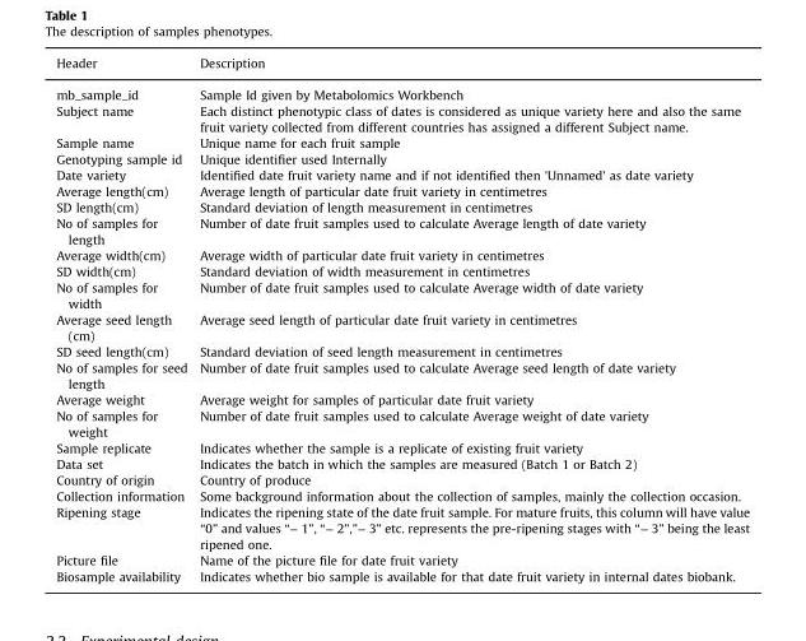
<table><thead><tr><td>Header</td><td>Description</td></tr></thead><tbody><tr><td>mb_sample_id</td><td>Sample Id given by Metabolomics Workbench</td></tr><tr><td>Subject name</td><td>Each distinct phenotypic class of dates is considered as unique variety here and also the same fruit variety collected from different countries has assigned a different Subject name.</td></tr><tr><td>Sample name</td><td>Unique name for each fruit sample</td></tr><tr><td>Genotyping sample id</td><td>Unique identifier used Internally</td></tr><tr><td>Date variety</td><td>Identified date fruit variety name and if not identified then &#x27;Unnamed&#x27; as date variety</td></tr><tr><td>Average length(cm)</td><td>Average length of particular date fruit variety in centimetres</td></tr><tr><td>SD length(cm)</td><td>Standard deviation of length measurement in centimetres</td></tr><tr><td>No of samples for length</td><td>Number of date fruit samples used to calculate Average length of date variety</td></tr><tr><td>Average width(cm)</td><td>Average width of particular date fruit variety in centimetres</td></tr><tr><td>SD width(cm)</td><td>Standard deviation of width measurement in centimetres</td></tr><tr><td>No of samples for width</td><td>Number of date fruit samples used to calculate Average width of date variety</td></tr><tr><td>Average seed length (cm)</td><td>Average seed length of particular date fruit variety in centimetres</td></tr><tr><td>SD seed length(cm)</td><td>Standard deviation of seed length measurement in centimetres</td></tr><tr><td>No of samples for seed length</td><td>Number of date fruit samples used to calculate Average seed length of date variety</td></tr><tr><td>Average weight</td><td>Average weight for samples of particular date fruit variety</td></tr><tr><td>No of samples for weight</td><td>Number of date fruit samples used to calculate Average weight of date variety</td></tr><tr><td>Sample replicate</td><td>Indicates whether the sample is a replicate of existing fruit variety</td></tr><tr><td>Data set</td><td>Indicates the batch in which the samples are measured (Batch 1 or Batch 2)</td></tr><tr><td>Country of origin</td><td>Country of produce</td></tr><tr><td>Collection information</td><td>Some background information about the collection of samples, mainly the collection occasion.</td></tr><tr><td>Ripening stage</td><td>Indicates the ripening state of the date fruit sample. For mature fruits, this column will have value “0” and values “− 1”, “− 2”,”− 3” etc. represents the pre-ripening stages with “− 3” being the least ripened one.</td></tr><tr><td>Picture file</td><td>Name of the picture file for date fruit variety</td></tr><tr><td>Biosample availability</td><td>Indicates whether bio sample is available for that date fruit variety in internal dates biobank.</td></tr></tbody></table>